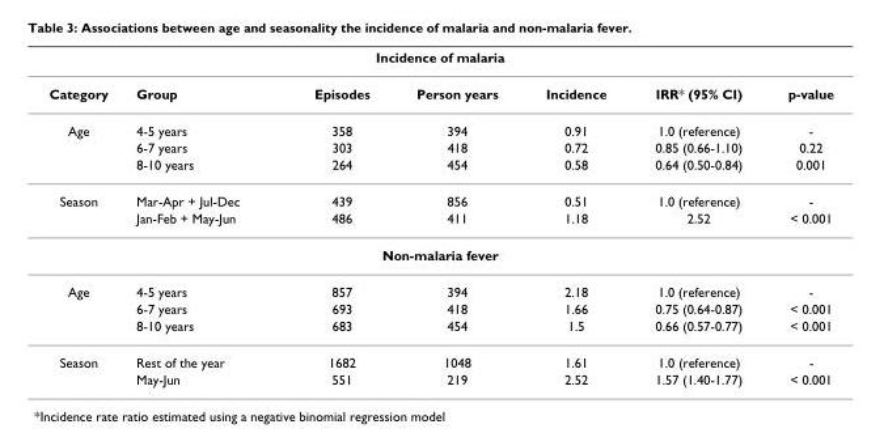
<table><thead><tr><td colspan="7">Incidence of malaria</td></tr><tr><td>Category</td><td>Group</td><td>Episodes</td><td>Person years</td><td>Incidence</td><td>IRR* (95% CI)</td><td>p-value</td></tr></thead><tbody><tr><td rowspan="3">Age</td><td>4-5 years</td><td>358</td><td>394</td><td>0.91</td><td>1.0 (reference)</td><td>-</td></tr><tr><td>6-7 years</td><td>303</td><td>418</td><td>0.72</td><td>0.85 (0.66-1.10)</td><td>0.22</td></tr><tr><td>8-10 years</td><td>264</td><td>454</td><td>0.58</td><td>0.64 (0.50-0.84)</td><td>0.001</td></tr><tr><td rowspan="2">Season</td><td>Mar-Apr + Jul-Dec</td><td>439</td><td>856</td><td>0.51</td><td>1.0 (reference)</td><td>-</td></tr><tr><td>Jan-Feb + May-Jun</td><td>486</td><td>411</td><td>1.18</td><td>2.52</td><td>&lt; 0.001</td></tr><tr><td colspan="7">Non-malaria fever</td></tr><tr><td rowspan="3">Age</td><td>4-5 years</td><td>857</td><td>394</td><td>2.18</td><td>1.0 (reference)</td><td>-</td></tr><tr><td>6-7 years</td><td>693</td><td>418</td><td>1.66</td><td>0.75 (0.64-0.87)</td><td>&lt; 0.001</td></tr><tr><td>8-10 years</td><td>683</td><td>454</td><td>1.5</td><td>0.66 (0.57-0.77)</td><td>&lt; 0.001</td></tr><tr><td rowspan="2">Season</td><td>Rest of the year</td><td>1682</td><td>1048</td><td>1.61</td><td>1.0 (reference)</td><td>-</td></tr><tr><td>May-Jun</td><td>551</td><td>219</td><td>2.52</td><td>1.57 (1.40-1.77)</td><td>&lt; 0.001</td></tr></tbody></table>